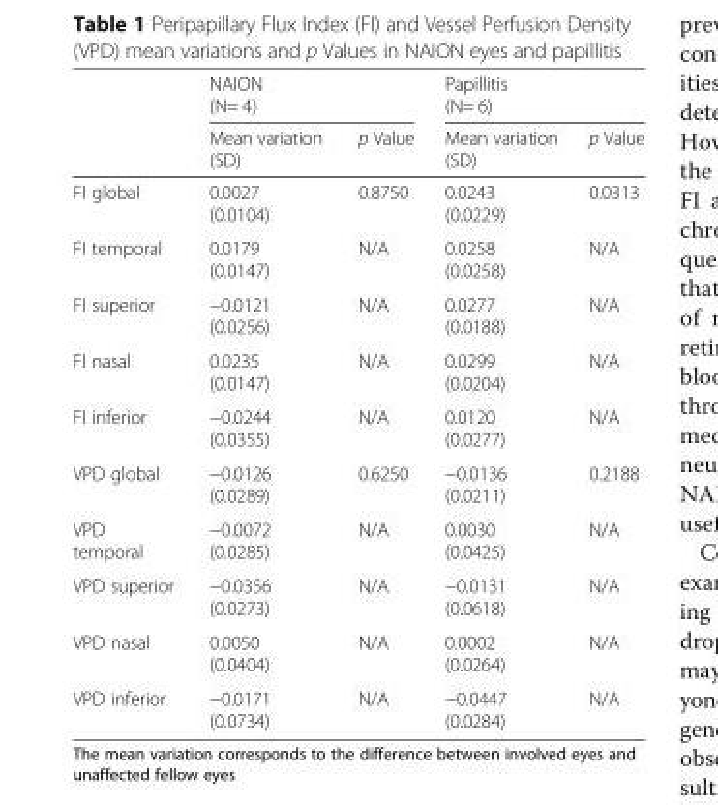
<table><thead><tr><td rowspan="2"></td><td colspan="2">NAION (N= 4)</td><td colspan="2">Papillitis (N= 6)</td></tr><tr><td>Mean variation (SD)</td><td>p Value</td><td>Mean variation (SD)</td><td>p Value</td></tr></thead><tbody><tr><td>FI global</td><td>0.0027 (0.0104)</td><td>0.8750</td><td>0.0243 (0.0229)</td><td>0.0313</td></tr><tr><td>FI temporal</td><td>0.0179 (0.0147)</td><td>N/A</td><td>0.0258 (0.0258)</td><td>N/A</td></tr><tr><td>FI superior</td><td>−0.0121 (0.0256)</td><td>N/A</td><td>0.0277 (0.0188)</td><td>N/A</td></tr><tr><td>FI nasal</td><td>0.0235 (0.0147)</td><td>N/A</td><td>0.0299 (0.0204)</td><td>N/A</td></tr><tr><td>FI inferior</td><td>−0.0244 (0.0355)</td><td>N/A</td><td>0.0120 (0.0277)</td><td>N/A</td></tr><tr><td>VPD global</td><td>−0.0126 (0.0289)</td><td>0.6250</td><td>−0.0136 (0.0211)</td><td>0.2188</td></tr><tr><td>VPD temporal</td><td>−0.0072 (0.0285)</td><td>N/A</td><td>0.0030 (0.0425)</td><td>N/A</td></tr><tr><td>VPD superior</td><td>−0.0356 (0.0273)</td><td>N/A</td><td>−0.0131 (0.0618)</td><td>N/A</td></tr><tr><td>VPD nasal</td><td>0.0050 (0.0404)</td><td>N/A</td><td>0.0002 (0.0264)</td><td>N/A</td></tr><tr><td>VPD inferior</td><td>−0.0171 (0.0734)</td><td>N/A</td><td>−0.0447 (0.0284)</td><td>N/A</td></tr></tbody></table>